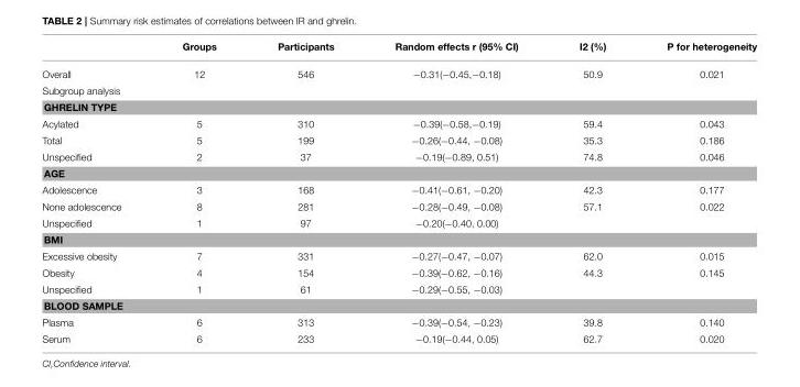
<table><thead><tr><td></td><td>Groups</td><td>Participants</td><td>Random effects r (95% CI)</td><td>I2 (%)</td><td>P for heterogeneity</td></tr></thead><tbody><tr><td>Overall</td><td>12</td><td>546</td><td>−0.31(−0.45,−0.18)</td><td>50.9</td><td>0.021</td></tr><tr><td colspan="6">Subgroup analysis</td></tr><tr><td colspan="6">GHRELIN TYPE</td></tr><tr><td>Acylated</td><td>5</td><td>310</td><td>−0.39(−0.58,−0.19)</td><td>59.4</td><td>0.043</td></tr><tr><td>Total</td><td>5</td><td>199</td><td>−0.26(−0.44, −0.08)</td><td>35.3</td><td>0.186</td></tr><tr><td>Unspecified</td><td>2</td><td>37</td><td>−0.19(−0.89, 0.51)</td><td>74.8</td><td>0.046</td></tr><tr><td colspan="6">AGE</td></tr><tr><td>Adolescence</td><td>3</td><td>168</td><td>−0.41(−0.61, −0.20)</td><td>42.3</td><td>0.177</td></tr><tr><td>None adolescence</td><td>8</td><td>281</td><td>−0.28(−0.49, −0.08)</td><td>57.1</td><td>0.022</td></tr><tr><td>Unspecified</td><td>1</td><td>97</td><td>−0.20(−0.40, 0.00)</td><td></td><td></td></tr><tr><td colspan="6">BMI</td></tr><tr><td>Excessive obesity</td><td>7</td><td>331</td><td>−0.27(−0.47, −0.07)</td><td>62.0</td><td>0.015</td></tr><tr><td>Obesity</td><td>4</td><td>154</td><td>−0.39(−0.62, −0.16)</td><td>44.3</td><td>0.145</td></tr><tr><td>Unspecified</td><td>1</td><td>61</td><td>−0.29(−0.55, −0.03)</td><td></td><td></td></tr><tr><td colspan="6">BLOOD SAMPLE</td></tr><tr><td>Plasma</td><td>6</td><td>313</td><td>−0.39(−0.54, −0.23)</td><td>39.8</td><td>0.140</td></tr><tr><td>Serum</td><td>6</td><td>233</td><td>−0.19(−0.44, 0.05)</td><td>62.7</td><td>0.020</td></tr></tbody></table>